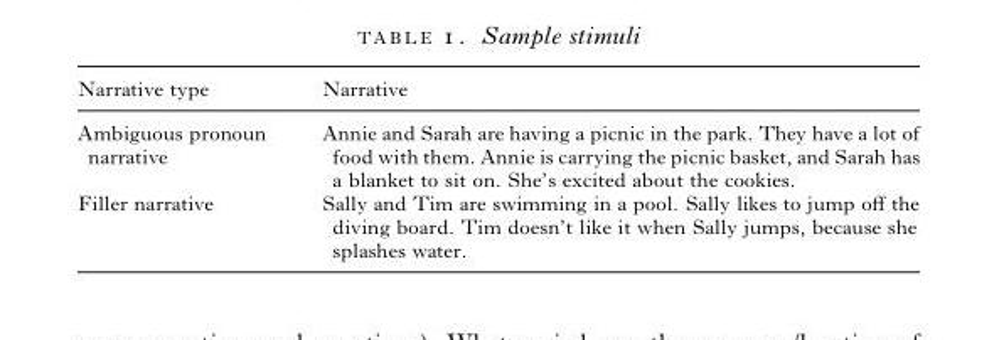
<table><thead><tr><td>Narrative type</td><td>Narrative</td></tr></thead><tbody><tr><td>Ambiguous pronoun narrative</td><td>Annie and Sarah are having a picnic in the park. They have a lot of food with them. Annie is carrying the picnic basket, and Sarah has a blanket to sit on. She’s excited about the cookies.</td></tr><tr><td>Filler narrative</td><td>Sally and Tim are swimming in a pool. Sally likes to jump off the diving board. Tim doesn’t like it when Sally jumps, because she splashes water.</td></tr></tbody></table>